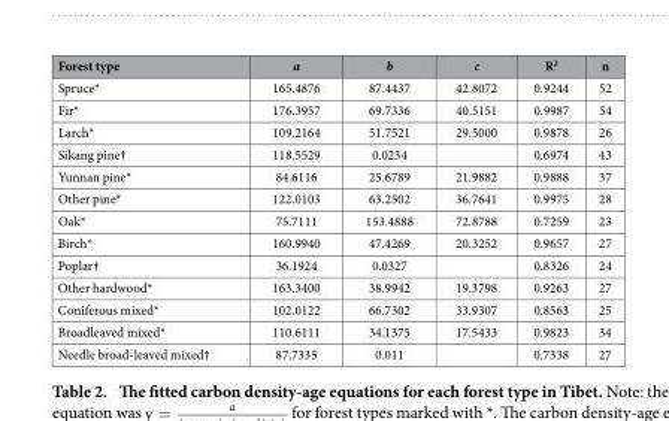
<table><thead><tr><td>Forest type</td><td>a</td><td>b</td><td>c</td><td>R<sup>2</sup></td><td>n</td></tr></thead><tbody><tr><td>Spruce*</td><td>165.4876</td><td>87.4437</td><td>42.8072</td><td>0.9244</td><td>52</td></tr><tr><td>Fir*</td><td>176.3957</td><td>69.7336</td><td>40.5151</td><td>0.9987</td><td>54</td></tr><tr><td>Larch*</td><td>109.2164</td><td>51.7521</td><td>29.5000</td><td>0.9878</td><td>26</td></tr><tr><td>Sikang pine†</td><td>118.5529</td><td>0.0234</td><td></td><td>0.6974</td><td>43</td></tr><tr><td>Yunnan pine*</td><td>84.6116</td><td>25.6789</td><td>21.9882</td><td>0.9888</td><td>37</td></tr><tr><td>Other pine*</td><td>122.0103</td><td>63.2502</td><td>36.7641</td><td>0.9975</td><td>28</td></tr><tr><td>Oak*</td><td>75.7111</td><td>153.4888</td><td>72.8788</td><td>0.7259</td><td>23</td></tr><tr><td>Birch*</td><td>160.9940</td><td>47.4269</td><td>20.3252</td><td>0.9657</td><td>27</td></tr><tr><td>Poplar†</td><td>36.1924</td><td>0.0327</td><td></td><td>0.8326</td><td>24</td></tr><tr><td>Other hardwood*</td><td>163.3400</td><td>38.9942</td><td>19.3798</td><td>0.9263</td><td>27</td></tr><tr><td>Coniferous mixed*</td><td>102.0122</td><td>66.7302</td><td>33.9307</td><td>0.8563</td><td>25</td></tr><tr><td>Broadleaved mixed*</td><td>110.6111</td><td>34.1375</td><td>17.5433</td><td>0.9823</td><td>34</td></tr><tr><td>Needle broad-leaved mixed†</td><td>87.7335</td><td>0.011</td><td></td><td>0.7338</td><td>27</td></tr></tbody></table>